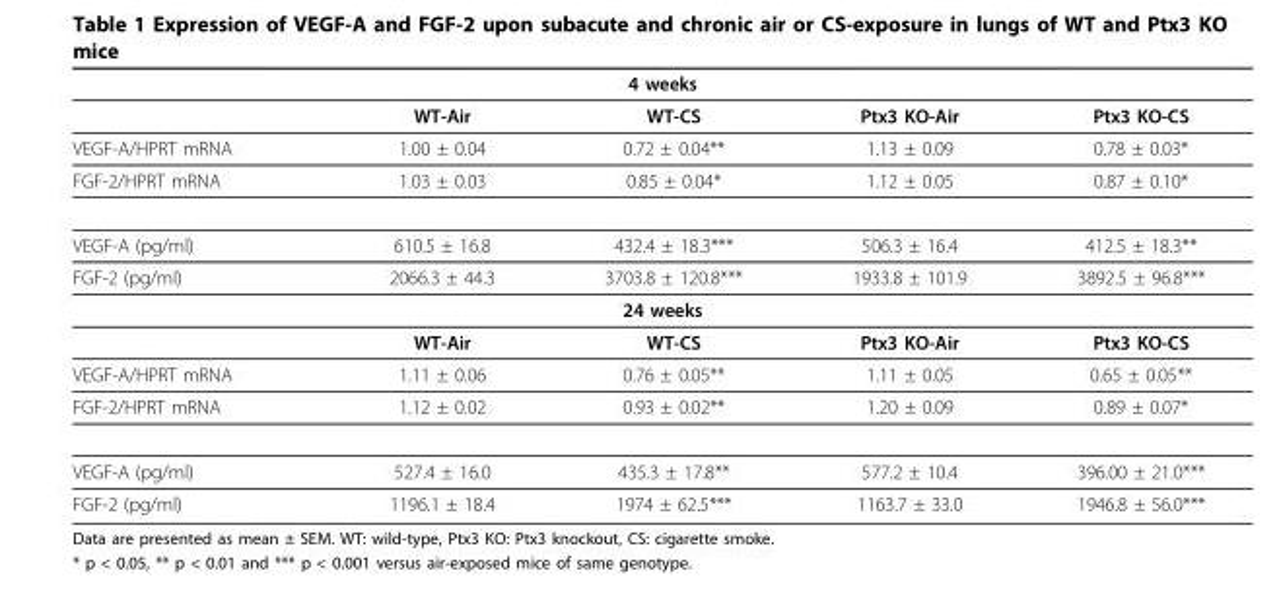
<table><thead><tr><td colspan="5">4 weeks</td></tr><tr><td></td><td>WT-Air</td><td>WT-CS</td><td>Ptx3 KO-Air</td><td>Ptx3 KO-CS</td></tr></thead><tbody><tr><td>VEGF-A/HPRT mRNA</td><td>1.00 ± 0.04</td><td>0.72 ± 0.04**</td><td>1.13 ± 0.09</td><td>0.78 ± 0.03*</td></tr><tr><td>FGF-2/HPRT mRNA</td><td>1.03 ± 0.03</td><td>0.85 ± 0.04*</td><td>1.12 ± 0.05</td><td>0.87 ± 0.10*</td></tr><tr><td>VEGF-A (pg/ml)</td><td>610.5 ± 16.8</td><td>432.4 ± 18.3***</td><td>506.3 ± 16.4</td><td>412.5 ± 18.3**</td></tr><tr><td>FGF-2 (pg/ml)</td><td>2066.3 ± 44.3</td><td>3703.8 ± 120.8***</td><td>1933.8 ± 101.9</td><td>3892.5 ± 96.8***</td></tr><tr><td colspan="5">24 weeks</td></tr><tr><td></td><td>WT-Air</td><td>WT-CS</td><td>Ptx3 KO-Air</td><td>Ptx3 KO-CS</td></tr><tr><td>VEGF-A/HPRT mRNA</td><td>1.11 ± 0.06</td><td>0.76 ± 0.05**</td><td>1.11 ± 0.05</td><td>0.65 ± 0.05**</td></tr><tr><td>FGF-2/HPRT mRNA</td><td>1.12 ± 0.02</td><td>0.93 ± 0.02**</td><td>1.20 ± 0.09</td><td>0.89 ± 0.07*</td></tr><tr><td>VEGF-A (pg/ml)</td><td>527.4 ± 16.0</td><td>435.3 ± 17.8**</td><td>577.2 ± 10.4</td><td>396.00 ± 21.0***</td></tr><tr><td>FGF-2 (pg/ml)</td><td>1196.1 ± 18.4</td><td>1974 ± 62.5***</td><td>1163.7 ± 33.0</td><td>1946.8 ± 56.0***</td></tr></tbody></table>